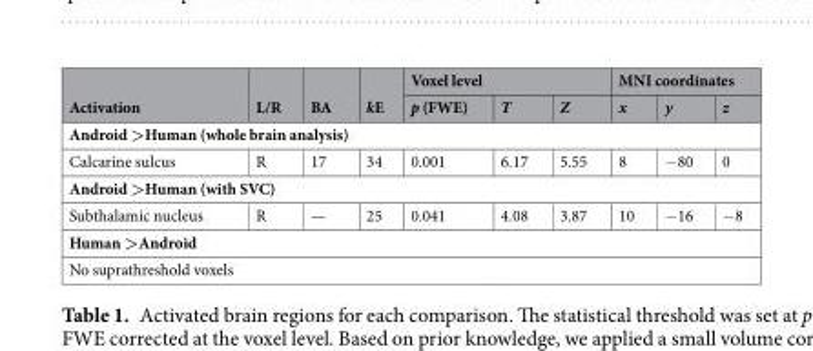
<table><thead><tr><td rowspan="2">Activation</td><td rowspan="2">L/R</td><td rowspan="2">BA</td><td rowspan="2">kE</td><td colspan="3">Voxel level</td><td colspan="3">MNI coordinates</td></tr><tr><td>p (FWE)</td><td>T</td><td>Z</td><td>x</td><td>y</td><td>z</td></tr></thead><tbody><tr><td colspan="10">Android &gt;Human (whole brain analysis)</td></tr><tr><td>Calcarine sulcus</td><td>R</td><td>17</td><td>34</td><td>0.001</td><td>6.17</td><td>5.55</td><td>8</td><td>−80</td><td>0</td></tr><tr><td colspan="10">Android &gt;Human (with SVC)</td></tr><tr><td>Subthalamic nucleus</td><td>R</td><td>—</td><td>25</td><td>0.041</td><td>4.08</td><td>3.87</td><td>10</td><td>−16</td><td>−8</td></tr><tr><td colspan="10">Human &gt;Android</td></tr><tr><td colspan="10">No suprathreshold voxels</td></tr></tbody></table>